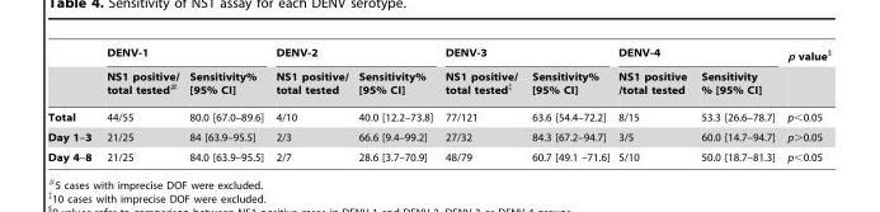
<table><thead><tr><td rowspan="2"></td><td colspan="2">DENV-1</td><td colspan="2">DENV-2</td><td colspan="2">DENV-3</td><td colspan="2">DENV-4</td><td rowspan="2">p value$</td></tr><tr><td>NS1 positive/ total tested#</td><td>Sensitivity% [95% CI]</td><td>NS1 positive/ total tested</td><td>Sensitivity% [95% CI]</td><td>NS1 positive/ total tested‡</td><td>Sensitivity% [95% CI]</td><td>NS1 positive /total tested</td><td>Sensitivity % [95% CI]</td></tr></thead><tbody><tr><td>Total</td><td>44/55</td><td>80.0 [67.0–89.6]</td><td>4/10</td><td>40.0 [12.2–73.8]</td><td>77/121</td><td>63.6 [54.4–72.2]</td><td>8/15</td><td>53.3 [26.6–78.7]</td><td>p&lt;0.05</td></tr><tr><td>Day 1–3</td><td>21/25</td><td>84 [63.9–95.5]</td><td>2/3</td><td>66.6 [9.4–99.2]</td><td>27/32</td><td>84.3 [67.2–94.7]</td><td>3/5</td><td>60.0 [14.7–94.7]</td><td>p&gt;0.05</td></tr><tr><td>Day 4–8</td><td>21/25</td><td>84.0 [63.9–95.5]</td><td>2/7</td><td>28.6 [3.7–70.9]</td><td>48/79</td><td>60.7 [49.1 –71.6]</td><td>5/10</td><td>50.0 [18.7–81.3]</td><td>p&lt;0.05</td></tr></tbody></table>